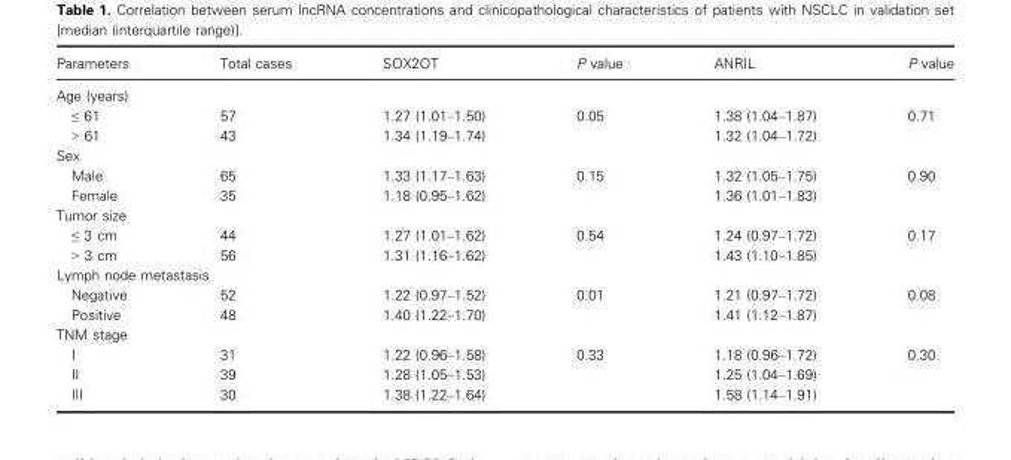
<table><thead><tr><td>Parameters</td><td>Total cases</td><td>SOX2OT</td><td>P value</td><td>ANRIL</td><td>P value</td></tr></thead><tbody><tr><td colspan="6">Age (years)</td></tr><tr><td>≤ 61</td><td>57</td><td>1.27 (1.01–1.50)</td><td rowspan="2">0.05</td><td>1.38 (1.04–1.87)</td><td rowspan="2">0.71</td></tr><tr><td>&gt; 61</td><td>43</td><td>1.34 (1.19–1.74)</td><td>1.32 (1.04–1.72)</td></tr><tr><td colspan="6">Sex</td></tr><tr><td>Male</td><td>65</td><td>1.33 (1.17–1.63)</td><td rowspan="2">0.15</td><td>1.32 (1.05–1.75)</td><td rowspan="2">0.90</td></tr><tr><td>Female</td><td>35</td><td>1.18 (0.95–1.62)</td><td>1.36 (1.01–1.83)</td></tr><tr><td colspan="6">Tumor size</td></tr><tr><td>≤ 3 cm</td><td>44</td><td>1.27 (1.01–1.62)</td><td rowspan="2">0.54</td><td>1.24 (0.97–1.72)</td><td rowspan="2">0.17</td></tr><tr><td>&gt; 3 cm</td><td>56</td><td>1.31 (1.16–1.62)</td><td>1.43 (1.10–1.85)</td></tr><tr><td colspan="6">Lymph node metastasis</td></tr><tr><td>Negative</td><td>52</td><td>1.22 (0.97–1.52)</td><td rowspan="2">0.01</td><td>1.21 (0.97–1.72)</td><td rowspan="2">0.08</td></tr><tr><td>Positive</td><td>48</td><td>1.40 (1.22–1.70)</td><td>1.41 (1.12–1.87)</td></tr><tr><td colspan="6">TNM stage</td></tr><tr><td>I</td><td>31</td><td>1.22 (0.96–1.58)</td><td rowspan="3">0.33</td><td>1.18 (0.96–1.72)</td><td rowspan="3">0.30</td></tr><tr><td>II</td><td>39</td><td>1.28 (1.05–1.53)</td><td>1.25 (1.04–1.69)</td></tr><tr><td>III</td><td>30</td><td>1.38 (1.22–1.64)</td><td>1.58 (1.14–1.91)</td></tr></tbody></table>